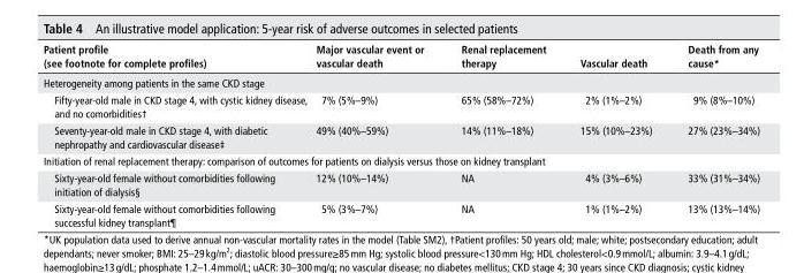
<table><thead><tr><td>Patient profile (see footnote for complete profiles)</td><td>Major vascular event or vascular death</td><td>renal replacement therapy</td><td>Vascular death</td><td>death from any cause*</td></tr></thead><tbody><tr><td colspan="5">Heterogeneity among patients in the same CKD stage</td></tr><tr><td>Fifty-year-old male in CKD stage 4, with cystic kidney disease, and no comorbidities†</td><td>7% (5%–9%)</td><td>65% (58%–72%)</td><td>2% (1%–2%)</td><td>9% (8%–10%)</td></tr><tr><td>Seventy-year-old male in CKD stage 4, with diabetic nephropathy and cardiovascular disease‡</td><td>49% (40%–59%)</td><td>14% (11%–18%)</td><td>15% (10%–23%)</td><td>27% (23%–34%)</td></tr><tr><td colspan="5">Initiation of renal replacement therapy: comparison of outcomes for patients on dialysis versus those on kidney transplant</td></tr><tr><td>Sixty-year-old female without comorbidities following initiation of dialysis§</td><td>12% (10%–14%)</td><td>NA</td><td>4% (3%–6%)</td><td>33% (31%–34%)</td></tr><tr><td>Sixty-year-old female without comorbidities following successful kidney transplant¶</td><td>5% (3%–7%)</td><td>NA</td><td>1% (1%–2%)</td><td>13% (13%–14%)</td></tr></tbody></table>